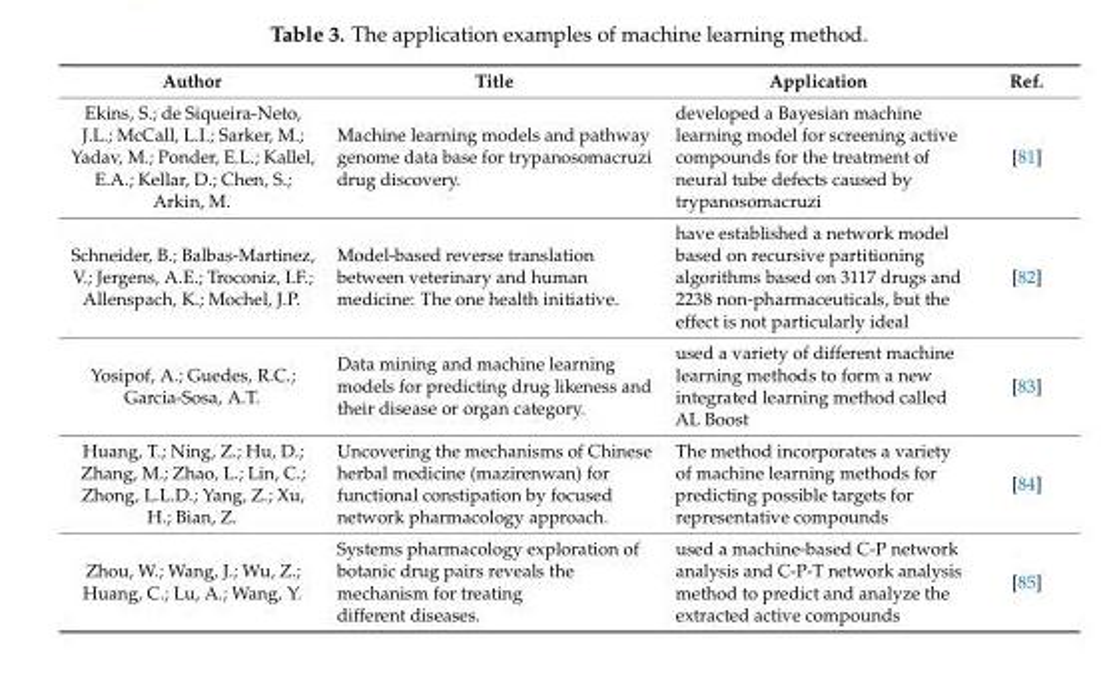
<table><thead><tr><td>Author</td><td>Title</td><td>Application</td><td>Ref.</td></tr></thead><tbody><tr><td>Ekins, S.; de Siqueira-Neto, J.L.; McCall, L.I.; Sarker, M.; Yadav, M.; Ponder, E.L.; Kallel, E.A.; Kellar, D.; Chen, S.; Arkin, M.</td><td>Machine learning models and pathway genome data base for trypanosomacruzi drug discovery.</td><td>developed a Bayesian machine learning model for screening active compounds for the treatment of neural tube defects caused by trypanosomacruzi</td><td>[81]</td></tr><tr><td>Schneider, B.; Balbas-Martinez, V.; Jergens, A.E.; Troconiz, I.F.; Allenspach, K.; Mochel, J.P.</td><td>Model-based reverse translation between veterinary and human medicine: The one health initiative.</td><td>have established a network model based on recursive partitioning algorithms based on 3117 drugs and 2238 non-pharmaceuticals, but the effect is not particularly ideal</td><td>[82]</td></tr><tr><td>Yosipof, A.; Guedes, R.C.; Garcia-Sosa, A.T.</td><td>Data mining and machine learning models for predicting drug likeness and their disease or organ category.</td><td>used a variety of different machine learning methods to form a new integrated learning method called AL Boost</td><td>[83]</td></tr><tr><td>Huang, T.; Ning, Z.; Hu, D.; Zhang, M.; Zhao, L.; Lin, C.; Zhong, L.L.D.; Yang, Z.; Xu, H.; Bian, Z.</td><td>Uncovering the mechanisms of Chinese herbal medicine (mazirenwan) for functional constipation by focused network pharmacology approach.</td><td>The method incorporates a variety of machine learning methods for predicting possible targets for representative compounds</td><td>[84]</td></tr><tr><td>Zhou, W.; Wang, J.; Wu, Z.; Huang, C.; Lu, A.; Wang, Y.</td><td>Systems pharmacology exploration of botanic drug pairs reveals the mechanism for treating different diseases.</td><td>used a machine-based C-P network analysis and C-P-T network analysis method to predict and analyze the extracted active compounds</td><td>[85]</td></tr></tbody></table>